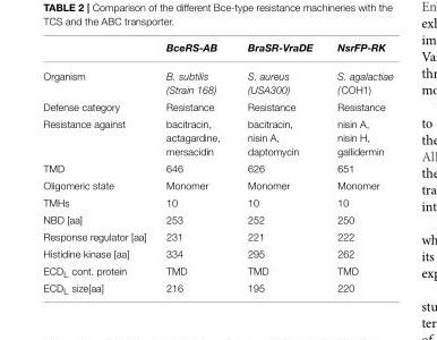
<table><thead><tr><td></td><td>BceRS-AB</td><td>BraSR-VraDE</td><td>NsrFP-RK</td></tr></thead><tbody><tr><td>Organism</td><td>B. subtilis (Strain 168)</td><td>S. aureus (USA300)</td><td>S. agalactiae (COH1)</td></tr><tr><td>Defense category</td><td>Resistance</td><td>Resistance</td><td>Resistance</td></tr><tr><td>Resistance against</td><td>bacitracin, actagardine, mersacidin</td><td>bacitracin, nisin A, daptomycin</td><td>nisin A, nisin H, gallidermin</td></tr><tr><td>TMD</td><td>646</td><td>626</td><td>651</td></tr><tr><td>Oligomeric state</td><td>Monomer</td><td>Monomer</td><td>Monomer</td></tr><tr><td>TMHs</td><td>10</td><td>10</td><td>10</td></tr><tr><td>NBD [aa]</td><td>253</td><td>252</td><td>250</td></tr><tr><td>Response regulator [aa]</td><td>231</td><td>221</td><td>222</td></tr><tr><td>Histidine kinase [aa]</td><td>334</td><td>295</td><td>262</td></tr><tr><td>ECD<sub>L</sub> cont. protein</td><td>TMD</td><td>TMD</td><td>TMD</td></tr><tr><td>ECD<sub>L</sub> size[aa]</td><td>216</td><td>195</td><td>220</td></tr></tbody></table>